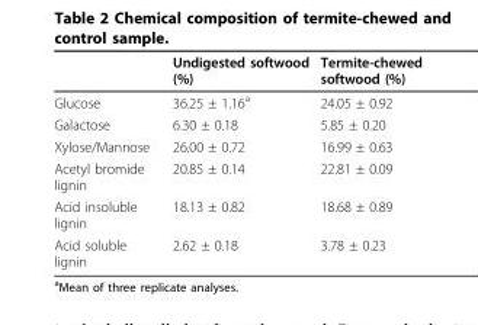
<table><thead><tr><td></td><td>Undigested softwood (%)</td><td>Termite-chewed softwood (%)</td></tr></thead><tbody><tr><td>Glucose</td><td>36.25 ± 1.16<sup>a</sup></td><td>24.05 ± 0.92</td></tr><tr><td>Galactose</td><td>6.30 ± 0.18</td><td>5.85 ± 0.20</td></tr><tr><td>Xylose/Mannose</td><td>26.00 ± 0.72</td><td>16.99 ± 0.63</td></tr><tr><td>Acetyl bromide lignin</td><td>20.85 ± 0.14</td><td>22.81 ± 0.09</td></tr><tr><td>Acid insoluble lignin</td><td>18.13 ± 0.82</td><td>18.68 ± 0.89</td></tr><tr><td>Acid soluble lignin</td><td>2.62 ± 0.18</td><td>3.78 ± 0.23</td></tr></tbody></table>